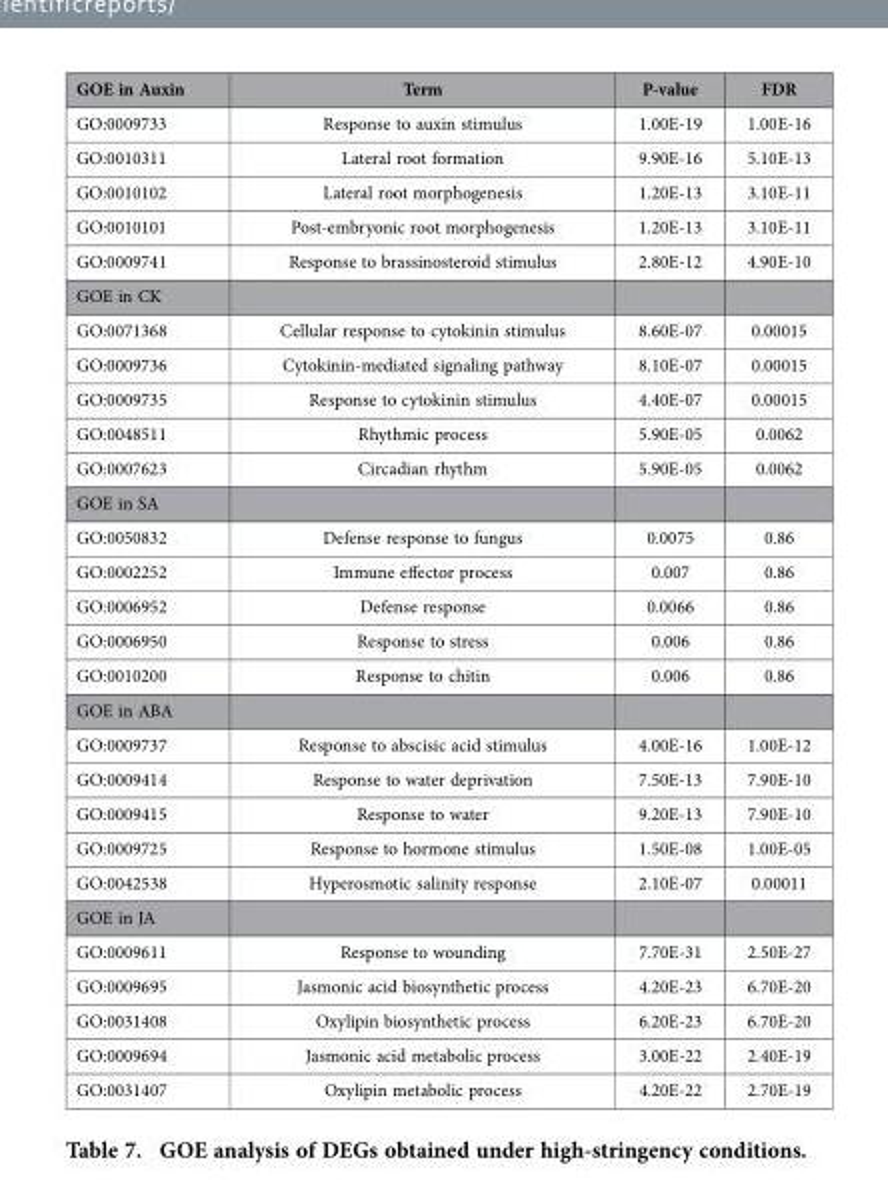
<table><thead><tr><td>GOE in Auxin</td><td>Term</td><td>P-value</td><td>FDR</td></tr></thead><tbody><tr><td>GO:0009733</td><td>Response to auxin stimulus</td><td>1.00E-19</td><td>1.00E-16</td></tr><tr><td>GO:0010311</td><td>Lateral root formation</td><td>9.90E-16</td><td>5.10E-13</td></tr><tr><td>GO:0010102</td><td>Lateral root morphogenesis</td><td>1.20E-13</td><td>3.10E-11</td></tr><tr><td>GO:0010101</td><td>Post-embryonic root morphogenesis</td><td>1.20E-13</td><td>3.10E-11</td></tr><tr><td>GO:0009741</td><td>Response to brassinosteroid stimulus</td><td>2.80E-12</td><td>4.90E-10</td></tr><tr><td colspan="4">GOE in CK</td></tr><tr><td>GO:0071368</td><td>Cellular response to cytokinin stimulus</td><td>8.60E-07</td><td>0.00015</td></tr><tr><td>GO:0009736</td><td>Cytokinin-mediated signaling pathway</td><td>8.10E-07</td><td>0.00015</td></tr><tr><td>GO:0009735</td><td>Response to cytokinin stimulus</td><td>4.40E-07</td><td>0.00015</td></tr><tr><td>GO:0048511</td><td>Rhythmic process</td><td>5.90E-05</td><td>0.0062</td></tr><tr><td>GO:0007623</td><td>Circadian rhythm</td><td>5.90E-05</td><td>0.0062</td></tr><tr><td colspan="4">GOE in SA</td></tr><tr><td>GO:0050832</td><td>Defense response to fungus</td><td>0.0075</td><td>0.86</td></tr><tr><td>GO:0002252</td><td>Immune effector process</td><td>0.007</td><td>0.86</td></tr><tr><td>GO:0006952</td><td>Defense response</td><td>0.0066</td><td>0.86</td></tr><tr><td>GO:0006950</td><td>Response to stress</td><td>0.006</td><td>0.86</td></tr><tr><td>GO:0010200</td><td>Response to chitin</td><td>0.006</td><td>0.86</td></tr><tr><td colspan="4">GOE in ABA</td></tr><tr><td>GO:0009737</td><td>Response to abscisic acid stimulus</td><td>4.00E-16</td><td>1.00E-12</td></tr><tr><td>GO:0009414</td><td>Response to water deprivation</td><td>7.50E-13</td><td>7.90E-10</td></tr><tr><td>GO:0009415</td><td>Response to water</td><td>9.20E-13</td><td>7.90E-10</td></tr><tr><td>GO:0009725</td><td>Response to hormone stimulus</td><td>1.50E-08</td><td>1.00E-05</td></tr><tr><td>GO:0042538</td><td>Hyperosmotic salinity response</td><td>2.10E-07</td><td>0.00011</td></tr><tr><td colspan="4">GOE in JA</td></tr><tr><td>GO:0009611</td><td>Response to wounding</td><td>7.70E-31</td><td>2.50E-27</td></tr><tr><td>GO:0009695</td><td>Jasmonic acid biosynthetic process</td><td>4.20E-23</td><td>6.70E-20</td></tr><tr><td>GO:0031408</td><td>Oxylipin biosynthetic process</td><td>6.20E-23</td><td>6.70E-20</td></tr><tr><td>GO:0009694</td><td>Jasmonic acid metabolic process</td><td>3.00E-22</td><td>2.40E-19</td></tr><tr><td>GO:0031407</td><td>Oxylipin metabolic process</td><td>4.20E-22</td><td>2.70E-19</td></tr></tbody></table>